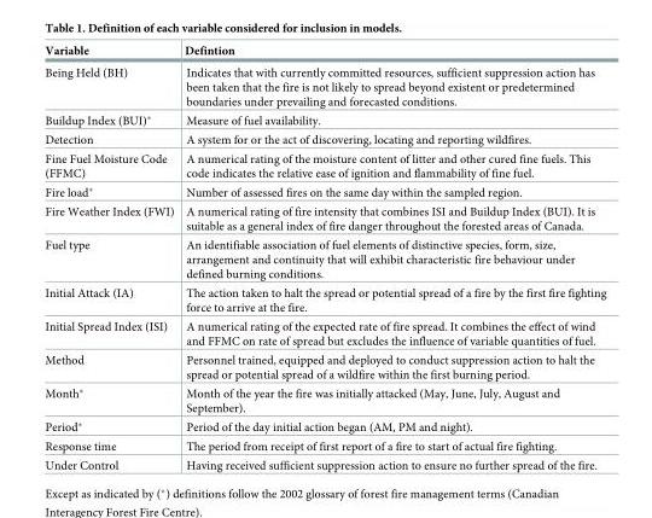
<table><thead><tr><td>Variable</td><td>Defintion</td></tr></thead><tbody><tr><td>Being Held (BH)</td><td>Indicates that with currently committed resources, sufficient suppression action has been taken that the fire is not likely to spread beyond existent or predetermined boundaries under prevailing and forecasted conditions.</td></tr><tr><td>Buildup Index (BUI)*</td><td>Measure of fuel availability.</td></tr><tr><td>Detection</td><td>A system for or the act of discovering, locating and reporting wildfires.</td></tr><tr><td>Fine Fuel Moisture Code (FFMC)</td><td>A numerical rating of the moisture content of litter and other cured fine fuels. This code indicates the relative ease of ignition and flammability of fine fuel.</td></tr><tr><td>Fire load*</td><td>Number of assessed fires on the same day within the sampled region.</td></tr><tr><td>Fire Weather Index (FWI)</td><td>A numerical rating of fire intensity that combines ISI and Buildup Index (BUI). It is suitable as a general index of fire danger throughout the forested areas of Canada.</td></tr><tr><td>Fuel type</td><td>An identifiable association of fuel elements of distinctive species, form, size, arrangement and continuity that will exhibit characteristic fire behaviour under defined burning conditions.</td></tr><tr><td>Initial Attack (IA)</td><td>The action taken to halt the spread or potential spread of a fire by the first fire fighting force to arrive at the fire.</td></tr><tr><td>Initial Spread Index (ISI)</td><td>A numerical rating of the expected rate of fire spread. It combines the effect of wind and FFMC on rate of spread but excludes the influence of variable quantities of fuel.</td></tr><tr><td>Method</td><td>Personnel trained, equipped and deployed to conduct suppression action to halt the spread or potential spread of a wildfire within the first burning period.</td></tr><tr><td>Month*</td><td>Month of the year the fire was initially attacked (May, June, July, August and September).</td></tr><tr><td>Period*</td><td>Period of the day initial action began (AM, PM and night).</td></tr><tr><td>Response time</td><td>The period from receipt of first report of a fire to start of actual fire fighting.</td></tr><tr><td>Under Control</td><td>Having received sufficient suppression action to ensure no further spread of the fire.</td></tr></tbody></table>